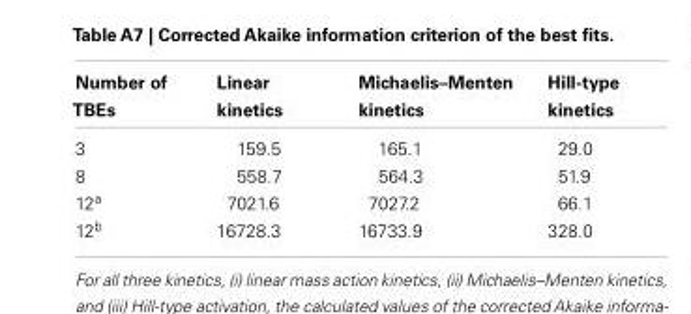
<table><thead><tr><td>Number of TBEs</td><td>Linear kinetics</td><td>Michaelis–Menten kinetics</td><td>Hill-type kinetics</td></tr></thead><tbody><tr><td>3</td><td>159.5</td><td>165.1</td><td>29.0</td></tr><tr><td>8</td><td>558.7</td><td>564.3</td><td>51.9</td></tr><tr><td>12<sup>a</sup></td><td>7021.6</td><td>7027.2</td><td>66.1</td></tr><tr><td>12<sup>b</sup></td><td>16728.3</td><td>16733.9</td><td>328.0</td></tr></tbody></table>